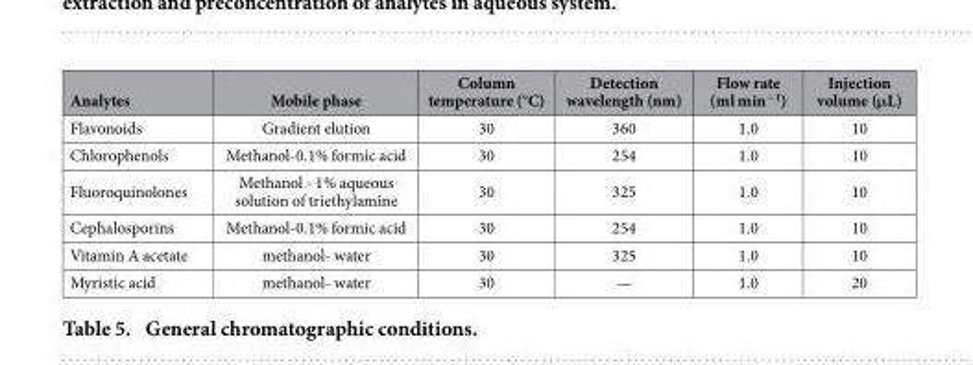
<table><thead><tr><td>Analytes</td><td>Mobile phase</td><td>Column temperature (°C)</td><td>Detection wavelength (nm)</td><td>Flow rate (ml min<sup>−1</sup>)</td><td>Injection volume (μL)</td></tr></thead><tbody><tr><td>Flavonoids</td><td>Gradient elution</td><td>30</td><td>360</td><td>1.0</td><td>10</td></tr><tr><td>Chlorophenols</td><td>Methanol-0.1% formic acid</td><td>30</td><td>254</td><td>1.0</td><td>10</td></tr><tr><td>Fluoroquinolones</td><td>Methanol - 1% aqueous solution of triethylamine</td><td>30</td><td>325</td><td>1.0</td><td>10</td></tr><tr><td>Cephalosporins</td><td>Methanol-0.1% formic acid</td><td>30</td><td>254</td><td>1.0</td><td>10</td></tr><tr><td>Vitamin A acetate</td><td>methanol- water</td><td>30</td><td>325</td><td>1.0</td><td>10</td></tr><tr><td>Myristic acid</td><td>methanol- water</td><td>30</td><td>—</td><td>1.0</td><td>20</td></tr></tbody></table>